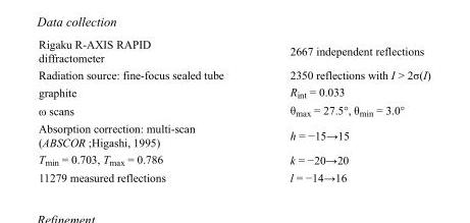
<table><tbody><tr><td>Rigaku R-AXIS RAPID diffractometer</td><td>2667 independent reflections</td></tr><tr><td>Radiation source: fine-focus sealed tube</td><td>2350 reflections with I &gt; 2σ(I)</td></tr><tr><td>graphite</td><td>R<sub>int</sub> = 0.033</td></tr><tr><td>ω scans</td><td>θ<sub>max</sub> = 27.5°, θ<sub>min</sub> = 3.0°</td></tr><tr><td>Absorption correction: multi-scan (ABSCOR ;Higashi, 1995)</td><td>h = −15→15</td></tr><tr><td>T<sub>min</sub> = 0.703, T<sub>max</sub> = 0.786</td><td>k = −20→20</td></tr><tr><td>11279 measured reflections</td><td>l = −14→16</td></tr></tbody></table>